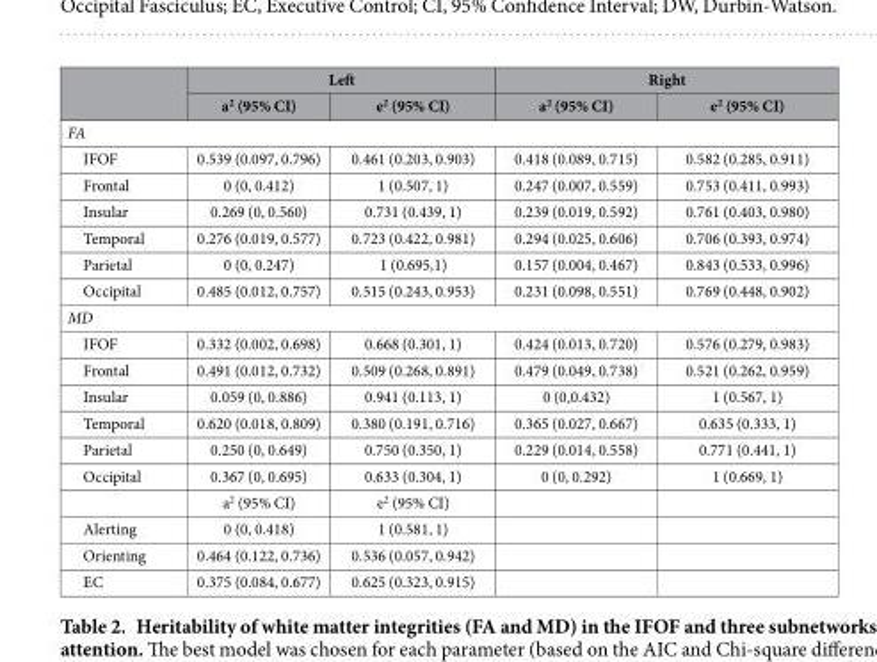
<table><thead><tr><td rowspan="2"></td><td colspan="2">Left</td><td colspan="2">Right</td></tr><tr><td>a<sup>2</sup> (95% CI)</td><td>e<sup>2</sup> (95% CI)</td><td>a<sup>2</sup> (95% CI)</td><td>e<sup>2</sup> (95% CI)</td></tr></thead><tbody><tr><td colspan="5">FA</td></tr><tr><td>IFOF</td><td>0.539 (0.097, 0.796)</td><td>0.461 (0.203, 0.903)</td><td>0.418 (0.089, 0.715)</td><td>0.582 (0.285, 0.911)</td></tr><tr><td>Frontal</td><td>0 (0, 0.412)</td><td>1 (0.507, 1)</td><td>0.247 (0.007, 0.559)</td><td>0.753 (0.411, 0.993)</td></tr><tr><td>Insular</td><td>0.269 (0, 0.560)</td><td>0.731 (0.439, 1)</td><td>0.239 (0.019, 0.592)</td><td>0.761 (0.403, 0.980)</td></tr><tr><td>Temporal</td><td>0.276 (0.019, 0.577)</td><td>0.723 (0.422, 0.981)</td><td>0.294 (0.025, 0.606)</td><td>0.706 (0.393, 0.974)</td></tr><tr><td>Parietal</td><td>0 (0, 0.247)</td><td>1 (0.695,1)</td><td>0.157 (0.004, 0.467)</td><td>0.843 (0.533, 0.996)</td></tr><tr><td>Occipital</td><td>0.485 (0.012, 0.757)</td><td>0.515 (0.243, 0.953)</td><td>0.231 (0.098, 0.551)</td><td>0.769 (0.448, 0.902)</td></tr><tr><td colspan="5">MD</td></tr><tr><td>IFOF</td><td>0.332 (0.002, 0.698)</td><td>0.668 (0.301, 1)</td><td>0.424 (0.013, 0.720)</td><td>0.576 (0.279, 0.983)</td></tr><tr><td>Frontal</td><td>0.491 (0.012, 0.732)</td><td>0.509 (0.268, 0.891)</td><td>0.479 (0.049, 0.738)</td><td>0.521 (0.262, 0.959)</td></tr><tr><td>Insular</td><td>0.059 (0, 0.886)</td><td>0.941 (0.113, 1)</td><td>0 (0,0.432)</td><td>1 (0.567, 1)</td></tr><tr><td>Temporal</td><td>0.620 (0.018, 0.809)</td><td>0.380 (0.191, 0.716)</td><td>0.365 (0.027, 0.667)</td><td>0.635 (0.333, 1)</td></tr><tr><td>Parietal</td><td>0.250 (0, 0.649)</td><td>0.750 (0.350, 1)</td><td>0.229 (0.014, 0.558)</td><td>0.771 (0.441, 1)</td></tr><tr><td rowspan="2">Occipital</td><td>0.367 (0, 0.695)</td><td>0.633 (0.304, 1)</td><td>0 (0, 0.292)</td><td>1 (0.669, 1)</td></tr><tr><td>a<sup>2</sup> (95% CI)</td><td>e<sup>2</sup> (95% CI)</td><td></td><td></td></tr><tr><td>Alerting</td><td>0 (0, 0.418)</td><td>1 (0.581, 1)</td><td></td><td></td></tr><tr><td>Orienting</td><td>0.464 (0.122, 0.736)</td><td>0.536 (0.057, 0.942)</td><td></td><td></td></tr><tr><td>EC</td><td>0.375 (0.084, 0.677)</td><td>0.625 (0.323, 0.915)</td><td></td><td></td></tr></tbody></table>